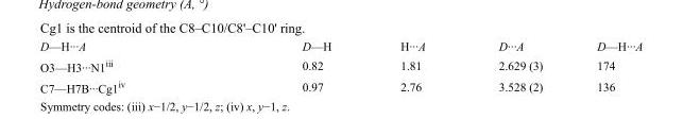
<table><tbody><tr><td>D—H···A</td><td>D—H</td><td>H···A</td><td>D···A</td><td>D—H···A</td></tr><tr><td>O3—H3···N1<sup>iii</sup></td><td>0.82</td><td>1.81</td><td>2.629 (3)</td><td>174</td></tr><tr><td>C7—H7B···Cg1<sup>iv</sup></td><td>0.97</td><td>2.76</td><td>3.528 (2)</td><td>136</td></tr></tbody></table>